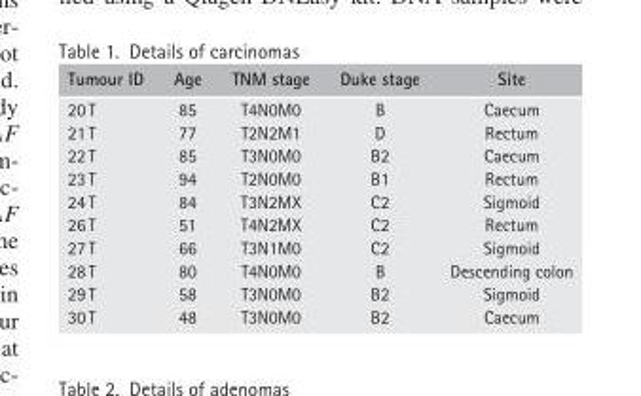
<table><thead><tr><td>Tumour ID</td><td>Age</td><td>TNM stage</td><td>Duke stage</td><td>Site</td></tr></thead><tbody><tr><td>20 T</td><td>85</td><td>T4N0M0</td><td>B</td><td>Caecum</td></tr><tr><td>21 T</td><td>77</td><td>T2N2M1</td><td>D</td><td>Rectum</td></tr><tr><td>22 T</td><td>85</td><td>T3N0M0</td><td>B2</td><td>Caecum</td></tr><tr><td>23 T</td><td>94</td><td>T2N0M0</td><td>B1</td><td>Rectum</td></tr><tr><td>24 T</td><td>84</td><td>T3N2MX</td><td>C2</td><td>Sigmoid</td></tr><tr><td>26 T</td><td>51</td><td>T4N2MX</td><td>C2</td><td>Rectum</td></tr><tr><td>27 T</td><td>66</td><td>T3N1M0</td><td>C2</td><td>Sigmoid</td></tr><tr><td>28 T</td><td>80</td><td>T4N0M0</td><td>B</td><td>Descending colon</td></tr><tr><td>29 T</td><td>58</td><td>T3N0M0</td><td>B2</td><td>Sigmoid</td></tr><tr><td>30 T</td><td>48</td><td>T3N0M0</td><td>B2</td><td>Caecum</td></tr></tbody></table>